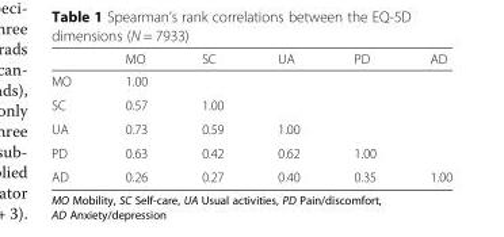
<table><thead><tr><td></td><td>MO</td><td>SC</td><td>UA</td><td>PD</td><td>AD</td></tr></thead><tbody><tr><td>MO</td><td>1.00</td><td></td><td></td><td></td><td></td></tr><tr><td>SC</td><td>0.57</td><td>1.00</td><td></td><td></td><td></td></tr><tr><td>UA</td><td>0.73</td><td>0.59</td><td>1.00</td><td></td><td></td></tr><tr><td>PD</td><td>0.63</td><td>0.42</td><td>0.62</td><td>1.00</td><td></td></tr><tr><td>AD</td><td>0.26</td><td>0.27</td><td>0.40</td><td>0.35</td><td>1.00</td></tr></tbody></table>